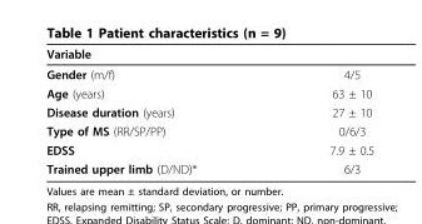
<table><thead><tr><td>Variable</td><td></td></tr></thead><tbody><tr><td>Gender (m/f)</td><td>4/5</td></tr><tr><td>Age (years)</td><td>63 ± 10</td></tr><tr><td>Disease duration (years)</td><td>27 ± 10</td></tr><tr><td>Type of MS (RR/SP/PP)</td><td>0/6/3</td></tr><tr><td>EDSS</td><td>7.9 ± 0.5</td></tr><tr><td>Trained upper limb (D/ND)*</td><td>6/3</td></tr></tbody></table>